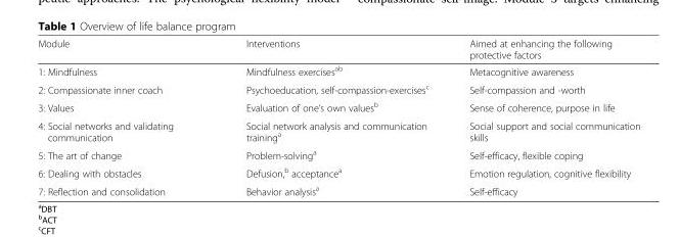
<table><thead><tr><td>Module</td><td>Interventions</td><td>Aimed at enhancing the following protective factors</td></tr></thead><tbody><tr><td>1: Mindfulness</td><td>Mindfulness exercises<sup>ab</sup></td><td>Metacognitive awareness</td></tr><tr><td>2: Compassionate inner coach</td><td>Psychoeducation, self-compassion-exercises<sup>c</sup></td><td>Self-compassion and -worth</td></tr><tr><td>3: Values</td><td>Evaluation of one’s own values<sup>b</sup></td><td>Sense of coherence, purpose in life</td></tr><tr><td>4: Social networks and validating communication</td><td>Social network analysis and communication training<sup>a</sup></td><td>Social support and social communication skills</td></tr><tr><td>5: The art of change</td><td>Problem-solving<sup>a</sup></td><td>Self-efficacy, flexible coping</td></tr><tr><td>6: Dealing with obstacles</td><td>Defusion,<sup>b</sup> acceptance<sup>a</sup></td><td>Emotion regulation, cognitive flexibility</td></tr><tr><td>7: Reflection and consolidation</td><td>Behavior analysis<sup>a</sup></td><td>Self-efficacy</td></tr></tbody></table>